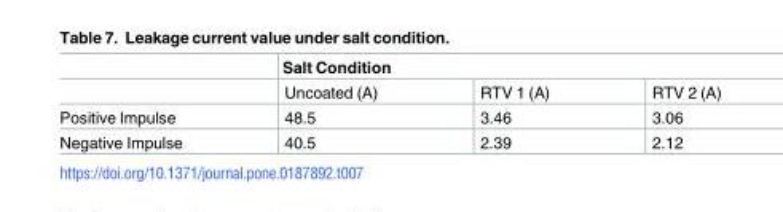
<table><thead><tr><td rowspan="2"></td><td colspan="3">Salt Condition</td></tr><tr><td>Uncoated (A)</td><td>RTV 1 (A)</td><td>RTV 2 (A)</td></tr></thead><tbody><tr><td>Positive Impulse</td><td>48.5</td><td>3.46</td><td>3.06</td></tr><tr><td>Negative Impulse</td><td>40.5</td><td>2.39</td><td>2.12</td></tr></tbody></table>